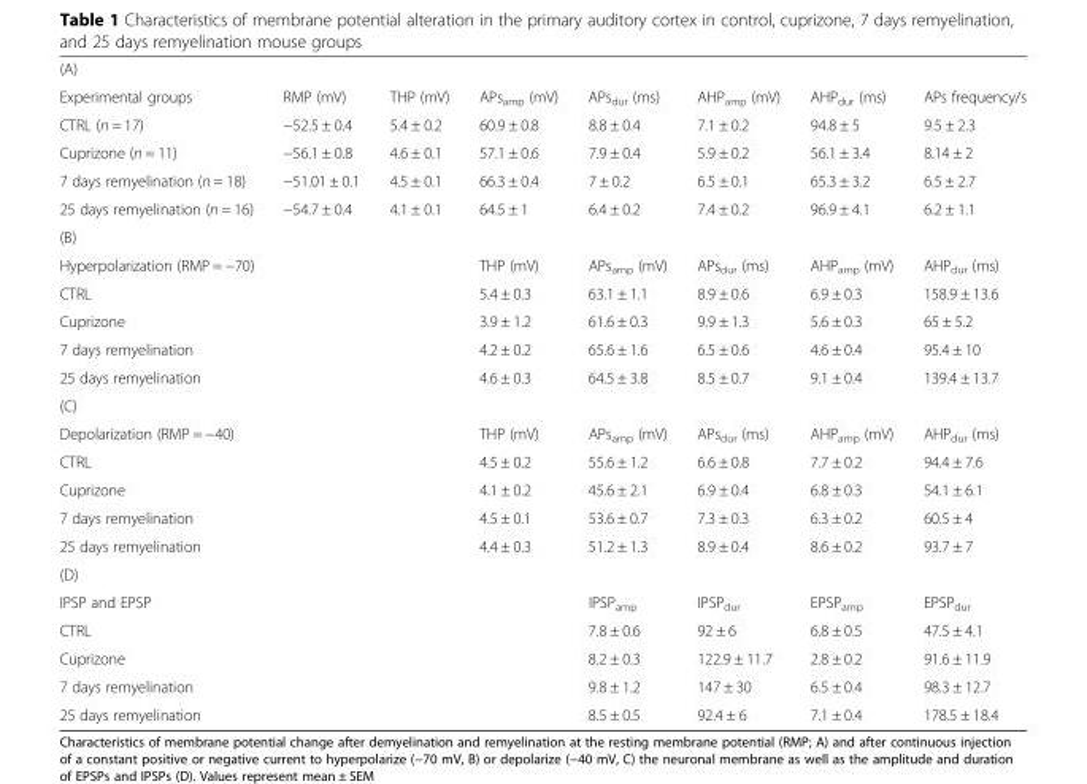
<table><tbody><tr><td colspan="8">(A)</td></tr><tr><td>Experimental groups</td><td>RMP (mV)</td><td>THP (mV)</td><td>APs<sub>amp</sub> (mV)</td><td>APs<sub>dur</sub> (ms)</td><td>AHP<sub>amp</sub> (mV)</td><td>AHP<sub>dur</sub> (ms)</td><td>APs frequency/s</td></tr><tr><td>CTRL (n = 17)</td><td>−52.5 ± 0.4</td><td>5.4 ± 0.2</td><td>60.9 ± 0.8</td><td>8.8 ± 0.4</td><td>7.1 ± 0.2</td><td>94.8 ± 5</td><td>9.5 ± 2.3</td></tr><tr><td>Cuprizone (n = 11)</td><td>−56.1 ± 0.8</td><td>4.6 ± 0.1</td><td>57.1 ± 0.6</td><td>7.9 ± 0.4</td><td>5.9 ± 0.2</td><td>56.1 ± 3.4</td><td>8.14 ± 2</td></tr><tr><td>7 days remyelination (n = 18)</td><td>−51.01 ± 0.1</td><td>4.5 ± 0.1</td><td>66.3 ± 0.4</td><td>7 ± 0.2</td><td>6.5 ± 0.1</td><td>65.3 ± 3.2</td><td>6.5 ± 2.7</td></tr><tr><td>25 days remyelination (n = 16)</td><td>−54.7 ± 0.4</td><td>4.1 ± 0.1</td><td>64.5 ± 1</td><td>6.4 ± 0.2</td><td>7.4 ± 0.2</td><td>96.9 ± 4.1</td><td>6.2 ± 1.1</td></tr><tr><td colspan="8">(B)</td></tr><tr><td colspan="3">Hyperpolarization (RMP = −70)</td><td>THP (mV)</td><td>APs<sub>amp</sub> (mV)</td><td>APs<sub>dur</sub> (ms)</td><td>AHP<sub>amp</sub> (mV)</td><td>AHP<sub>dur</sub> (ms)</td></tr><tr><td colspan="3">CTRL</td><td>5.4 ± 0.3</td><td>63.1 ± 1.1</td><td>8.9 ± 0.6</td><td>6.9 ± 0.3</td><td>158.9 ± 13.6</td></tr><tr><td colspan="3">Cuprizone</td><td>3.9 ± 1.2</td><td>61.6 ± 0.3</td><td>9.9 ± 1.3</td><td>5.6 ± 0.3</td><td>65 ± 5.2</td></tr><tr><td colspan="3">7 days remyelination</td><td>4.2 ± 0.2</td><td>65.6 ± 1.6</td><td>6.5 ± 0.6</td><td>4.6 ± 0.4</td><td>95.4 ± 10</td></tr><tr><td colspan="3">25 days remyelination</td><td>4.6 ± 0.3</td><td>64.5 ± 3.8</td><td>8.5 ± 0.7</td><td>9.1 ± 0.4</td><td>139.4 ± 13.7</td></tr><tr><td colspan="8">(C)</td></tr><tr><td colspan="3">Depolarization (RMP = −40)</td><td>THP (mV)</td><td>APs<sub>amp</sub> (mV)</td><td>APs<sub>dur</sub> (ms)</td><td>AHP<sub>amp</sub> (mV)</td><td>AHP<sub>dur</sub> (ms)</td></tr><tr><td colspan="3">CTRL</td><td>4.5 ± 0.2</td><td>55.6 ± 1.2</td><td>6.6 ± 0.8</td><td>7.7 ± 0.2</td><td>94.4 ± 7.6</td></tr><tr><td colspan="3">Cuprizone</td><td>4.1 ± 0.2</td><td>45.6 ± 2.1</td><td>6.9 ± 0.4</td><td>6.8 ± 0.3</td><td>54.1 ± 6.1</td></tr><tr><td colspan="3">7 days remyelination</td><td>4.5 ± 0.1</td><td>53.6 ± 0.7</td><td>7.3 ± 0.3</td><td>6.3 ± 0.2</td><td>60.5 ± 4</td></tr><tr><td colspan="3">25 days remyelination</td><td>4.4 ± 0.3</td><td>51.2 ± 1.3</td><td>8.9 ± 0.4</td><td>8.6 ± 0.2</td><td>93.7 ± 7</td></tr><tr><td colspan="8">(D)</td></tr><tr><td colspan="4">IPSP and EPSP</td><td>IPSP<sub>amp</sub></td><td>IPSP<sub>dur</sub></td><td>EPSP<sub>amp</sub></td><td>EPSP<sub>dur</sub></td></tr><tr><td colspan="4">CTRL</td><td>7.8 ± 0.6</td><td>92 ± 6</td><td>6.8 ± 0.5</td><td>47.5 ± 4.1</td></tr><tr><td colspan="4">Cuprizone</td><td>8.2 ± 0.3</td><td>122.9 ± 11.7</td><td>2.8 ± 0.2</td><td>91.6 ± 11.9</td></tr><tr><td colspan="4">7 days remyelination</td><td>9.8 ± 1.2</td><td>147 ± 30</td><td>6.5 ± 0.4</td><td>98.3 ± 12.7</td></tr><tr><td colspan="4">25 days remyelination</td><td>8.5 ± 0.5</td><td>92.4 ± 6</td><td>7.1 ± 0.4</td><td>178.5 ± 18.4</td></tr></tbody></table>